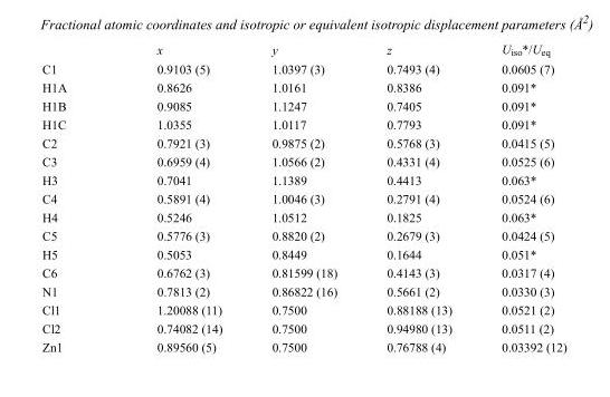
<table><thead><tr><td></td><td>x</td><td>y</td><td>z</td><td>U<sub>iso</sub>*/U<sub>eq</sub></td></tr></thead><tbody><tr><td>C1</td><td>0.9103 (5)</td><td>1.0397 (3)</td><td>0.7493 (4)</td><td>0.0605 (7)</td></tr><tr><td>H1A</td><td>0.8626</td><td>1.0161</td><td>0.8386</td><td>0.091*</td></tr><tr><td>H1B</td><td>0.9085</td><td>1.1247</td><td>0.7405</td><td>0.091*</td></tr><tr><td>H1C</td><td>1.0355</td><td>1.0117</td><td>0.7793</td><td>0.091*</td></tr><tr><td>C2</td><td>0.7921 (3)</td><td>0.9875 (2)</td><td>0.5768 (3)</td><td>0.0415 (5)</td></tr><tr><td>C3</td><td>0.6959 (4)</td><td>1.0566 (2)</td><td>0.4331 (4)</td><td>0.0525 (6)</td></tr><tr><td>H3</td><td>0.7041</td><td>1.1389</td><td>0.4413</td><td>0.063*</td></tr><tr><td>C4</td><td>0.5891 (4)</td><td>1.0046 (3)</td><td>0.2791 (4)</td><td>0.0524 (6)</td></tr><tr><td>H4</td><td>0.5246</td><td>1.0512</td><td>0.1825</td><td>0.063*</td></tr><tr><td>C5</td><td>0.5776 (3)</td><td>0.8820 (2)</td><td>0.2679 (3)</td><td>0.0424 (5)</td></tr><tr><td>H5</td><td>0.5053</td><td>0.8449</td><td>0.1644</td><td>0.051*</td></tr><tr><td>C6</td><td>0.6762 (3)</td><td>0.81599 (18)</td><td>0.4143 (3)</td><td>0.0317 (4)</td></tr><tr><td>N1</td><td>0.7813 (2)</td><td>0.86822 (16)</td><td>0.5661 (2)</td><td>0.0330 (3)</td></tr><tr><td>Cl1</td><td>1.20088 (11)</td><td>0.7500</td><td>0.88188 (13)</td><td>0.0521 (2)</td></tr><tr><td>Cl2</td><td>0.74082 (14)</td><td>0.7500</td><td>0.94980 (13)</td><td>0.0511 (2)</td></tr><tr><td>Zn1</td><td>0.89560 (5)</td><td>0.7500</td><td>0.76788 (4)</td><td>0.03392 (12)</td></tr></tbody></table>